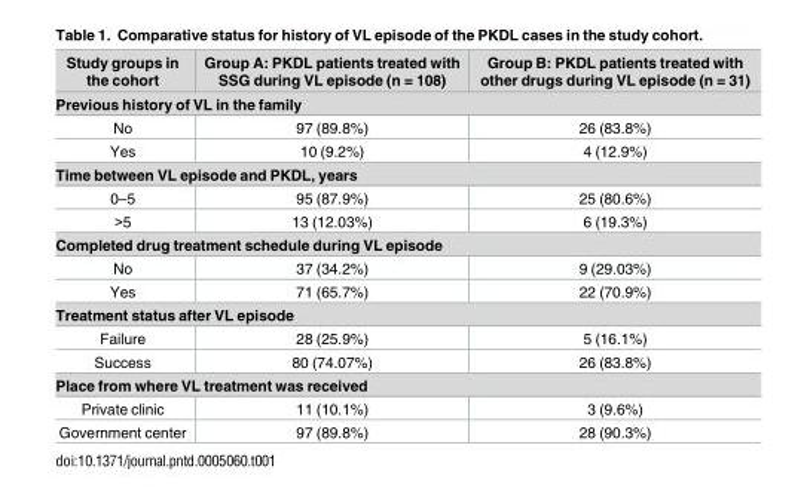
<table><thead><tr><td>Study groups in the cohort</td><td>Group A: PKDL patients treated with SSG during VL episode (n = 108)</td><td>Group B: PKDL patients treated with other drugs during VL episode (n = 31)</td></tr></thead><tbody><tr><td colspan="3">Previous history of VL in the family</td></tr><tr><td>No</td><td>97 (89.8%)</td><td>26 (83.8%)</td></tr><tr><td>Yes</td><td>10 (9.2%)</td><td>4 (12.9%)</td></tr><tr><td colspan="3">Time between VL episode and PKDL, years</td></tr><tr><td>0–5</td><td>95 (87.9%)</td><td>25 (80.6%)</td></tr><tr><td>&gt;5</td><td>13 (12.03%)</td><td>6 (19.3%)</td></tr><tr><td colspan="3">Completed drug treatment schedule during VL episode</td></tr><tr><td>No</td><td>37 (34.2%)</td><td>9 (29.03%)</td></tr><tr><td>Yes</td><td>71 (65.7%)</td><td>22 (70.9%)</td></tr><tr><td colspan="3">Treatment status after VL episode</td></tr><tr><td>Failure</td><td>28 (25.9%)</td><td>5 (16.1%)</td></tr><tr><td>Success</td><td>80 (74.07%)</td><td>26 (83.8%)</td></tr><tr><td colspan="3">Place from where VL treatment was received</td></tr><tr><td>Private clinic</td><td>11 (10.1%)</td><td>3 (9.6%)</td></tr><tr><td>Government center</td><td>97 (89.8%)</td><td>28 (90.3%)</td></tr></tbody></table>